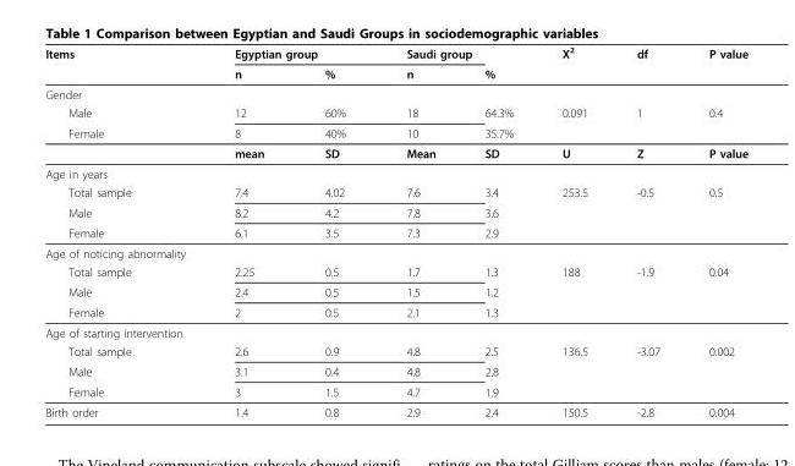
<table><thead><tr><td rowspan="2">Items</td><td colspan="2">Egyptian group</td><td colspan="2">Saudi group</td><td rowspan="2">X<sup>2</sup></td><td rowspan="2">df</td><td rowspan="2">P value</td></tr><tr><td>n</td><td>%</td><td>n</td><td>%</td></tr></thead><tbody><tr><td colspan="8">Gender</td></tr><tr><td>Male</td><td>12</td><td>60%</td><td>18</td><td>64.3%</td><td>0.091</td><td>1</td><td>0.4</td></tr><tr><td rowspan="2">Female</td><td>8</td><td>40%</td><td>10</td><td>35.7%</td><td></td><td></td><td></td></tr><tr><td>mean</td><td>SD</td><td>Mean</td><td>SD</td><td>U</td><td>Z</td><td>P value</td></tr><tr><td colspan="8">Age in years</td></tr><tr><td>Total sample</td><td>7.4</td><td>4.02</td><td>7.6</td><td>3.4</td><td>253.5</td><td>-0.5</td><td>0.5</td></tr><tr><td>Male</td><td>8.2</td><td>4.2</td><td>7.8</td><td>3.6</td><td></td><td></td><td></td></tr><tr><td>Female</td><td>6.1</td><td>3.5</td><td>7.3</td><td>2.9</td><td></td><td></td><td></td></tr><tr><td colspan="8">Age of noticing abnormality</td></tr><tr><td>Total sample</td><td>2.25</td><td>0.5</td><td>1.7</td><td>1.3</td><td>188</td><td>-1.9</td><td>0.04</td></tr><tr><td>Male</td><td>2.4</td><td>0.5</td><td>1.5</td><td>1.2</td><td></td><td></td><td></td></tr><tr><td>Female</td><td>2</td><td>0.5</td><td>2.1</td><td>1.3</td><td></td><td></td><td></td></tr><tr><td colspan="8">Age of starting intervention</td></tr><tr><td>Total sample</td><td>2.6</td><td>0.9</td><td>4.8</td><td>2.5</td><td>136.5</td><td>-3.07</td><td>0.002</td></tr><tr><td>Male</td><td>3.1</td><td>0.4</td><td>4.8</td><td>2.8</td><td></td><td></td><td></td></tr><tr><td>Female</td><td>3</td><td>1.5</td><td>4.7</td><td>1.9</td><td></td><td></td><td></td></tr><tr><td>Birth order</td><td>1.4</td><td>0.8</td><td>2.9</td><td>2.4</td><td>150.5</td><td>-2.8</td><td>0.004</td></tr></tbody></table>